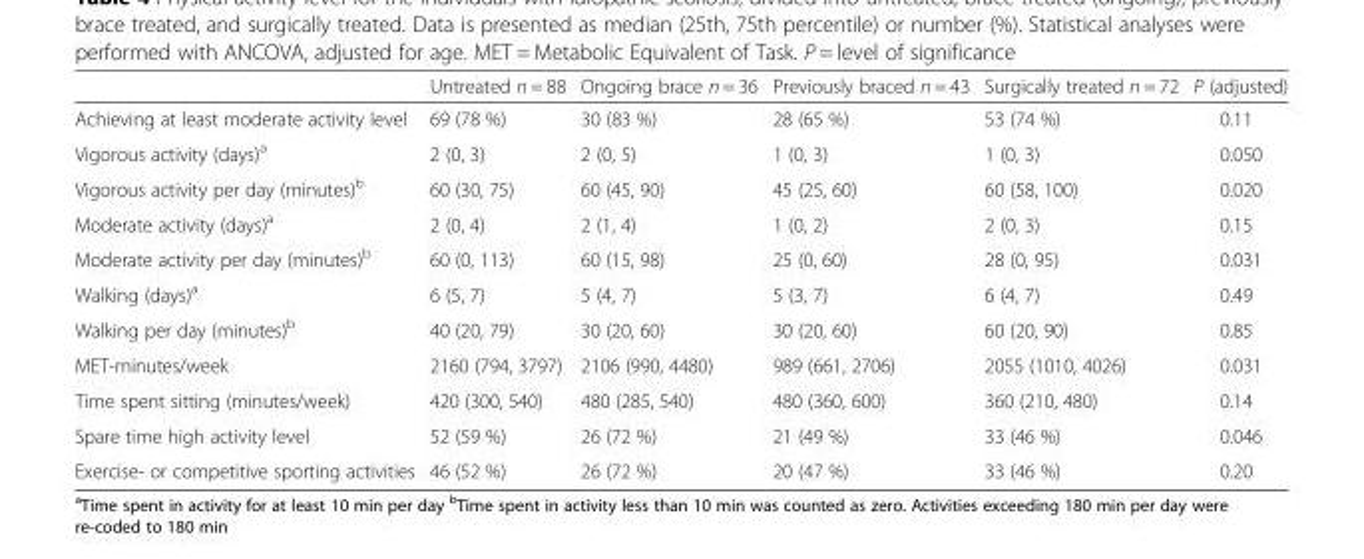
<table><thead><tr><td></td><td>Untreated n = 88</td><td>Ongoing brace n = 36</td><td>Previously braced n = 43</td><td>Surgically treated n = 72</td><td>P (adjusted)</td></tr></thead><tbody><tr><td>Achieving at least moderate activity level</td><td>69 (78 %)</td><td>30 (83 %)</td><td>28 (65 %)</td><td>53 (74 %)</td><td>0.11</td></tr><tr><td>Vigorous activity (days)<sup>a</sup></td><td>2 (0, 3)</td><td>2 (0, 5)</td><td>1 (0, 3)</td><td>1 (0, 3)</td><td>0.050</td></tr><tr><td>Vigorous activity per day (minutes)<sup>b</sup></td><td>60 (30, 75)</td><td>60 (45, 90)</td><td>45 (25, 60)</td><td>60 (58, 100)</td><td>0.020</td></tr><tr><td>Moderate activity (days)<sup>a</sup></td><td>2 (0, 4)</td><td>2 (1, 4)</td><td>1 (0, 2)</td><td>2 (0, 3)</td><td>0.15</td></tr><tr><td>Moderate activity per day (minutes)<sup>b</sup></td><td>60 (0, 113)</td><td>60 (15, 98)</td><td>25 (0, 60)</td><td>28 (0, 95)</td><td>0.031</td></tr><tr><td>Walking (days)<sup>a</sup></td><td>6 (5, 7)</td><td>5 (4, 7)</td><td>5 (3, 7)</td><td>6 (4, 7)</td><td>0.49</td></tr><tr><td>Walking per day (minutes)<sup>b</sup></td><td>40 (20, 79)</td><td>30 (20, 60)</td><td>30 (20, 60)</td><td>60 (20, 90)</td><td>0.85</td></tr><tr><td>MET-minutes/week</td><td>2160 (794, 3797)</td><td>2106 (990, 4480)</td><td>989 (661, 2706)</td><td>2055 (1010, 4026)</td><td>0.031</td></tr><tr><td>Time spent sitting (minutes/week)</td><td>420 (300, 540)</td><td>480 (285, 540)</td><td>480 (360, 600)</td><td>360 (210, 480)</td><td>0.14</td></tr><tr><td>Spare time high activity level</td><td>52 (59 %)</td><td>26 (72 %)</td><td>21 (49 %)</td><td>33 (46 %)</td><td>0.046</td></tr><tr><td>Exercise- or competitive sporting activities</td><td>46 (52 %)</td><td>26 (72 %)</td><td>20 (47 %)</td><td>33 (46 %)</td><td>0.20</td></tr></tbody></table>